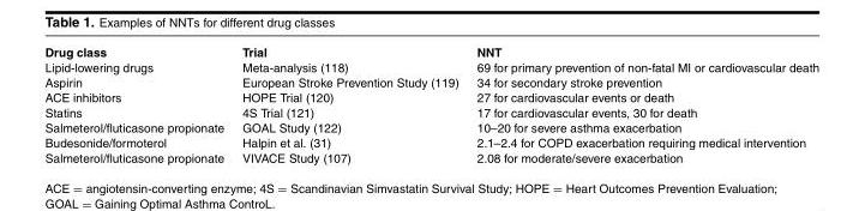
<table><tbody><tr><td>Drug class</td><td>Trial</td><td>NNT</td></tr><tr><td>Lipid-lowering drugs</td><td>Meta-analysis (118)</td><td>69 for primary prevention of non-fatal MI or cardiovascular death</td></tr><tr><td>Aspirin</td><td>European Stroke Prevention Study (119)</td><td>34 for secondary stroke prevention</td></tr><tr><td>ACE inhibitors</td><td>HOPE Trial (120)</td><td>27 for cardiovascular events or death</td></tr><tr><td>Statins</td><td>4S Trial (121)</td><td>17 for cardiovascular events, 30 for death</td></tr><tr><td>Salmeterol/fluticasone propionate</td><td>GOAL Study (122)</td><td>10–20 for severe asthma exacerbation</td></tr><tr><td>Budesonide/formoterol</td><td>Halpin et al. (31)</td><td>2.1–2.4 for COPD exacerbation requiring medical intervention</td></tr><tr><td>Salmeterol/fluticasone propionate</td><td>VIVACE Study (107)</td><td>2.08 for moderate/severe exacerbation</td></tr></tbody></table>